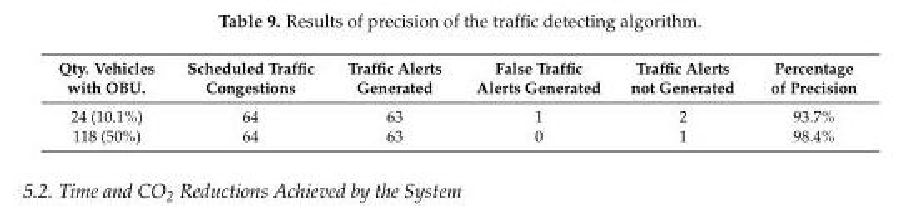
<table><thead><tr><td>Qty. Vehicles with OBU.</td><td>Scheduled Traffic Congestions</td><td>Traffic Alerts Generated</td><td>False Traffic Alerts Generated</td><td>Traffic Alerts not Generated</td><td>Percentage of Precision</td></tr></thead><tbody><tr><td>24 (10.1%)</td><td>64</td><td>63</td><td>1</td><td>2</td><td>93.7%</td></tr><tr><td>118 (50%)</td><td>64</td><td>63</td><td>0</td><td>1</td><td>98.4%</td></tr></tbody></table>